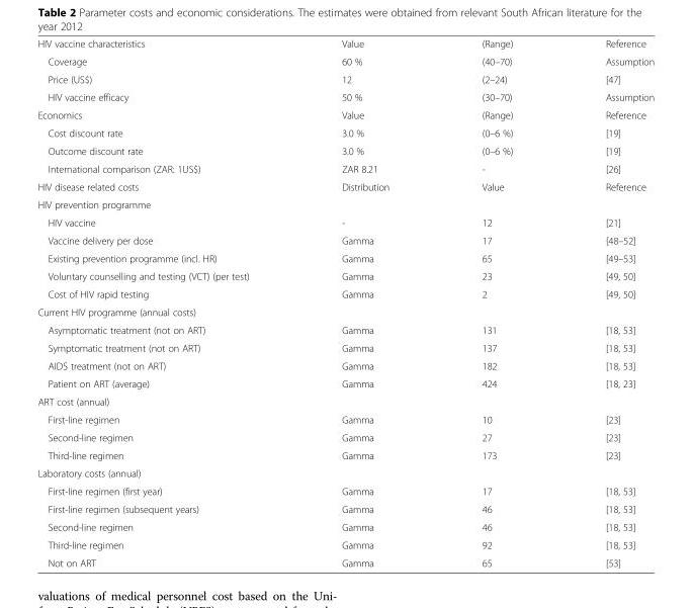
<table><tbody><tr><td>HIV vaccine characteristics</td><td>Value</td><td>(Range)</td><td>Reference</td></tr><tr><td>Coverage</td><td>60 %</td><td>(40–70)</td><td>Assumption</td></tr><tr><td>Price (US$)</td><td>12</td><td>(2–24)</td><td>[47]</td></tr><tr><td>HIV vaccine efficacy</td><td>50 %</td><td>(30–70)</td><td>Assumption</td></tr><tr><td>Economics</td><td>Value</td><td>(Range)</td><td>Reference</td></tr><tr><td>Cost discount rate</td><td>3.0 %</td><td>(0–6 %)</td><td>[19]</td></tr><tr><td>Outcome discount rate</td><td>3.0 %</td><td>(0–6 %)</td><td>[19]</td></tr><tr><td>International comparison (ZAR: 1US$)</td><td>ZAR 8.21</td><td>-</td><td>[26]</td></tr><tr><td>HIV disease related costs</td><td>Distribution</td><td>Value</td><td>Reference</td></tr><tr><td colspan="4">HIV prevention programme</td></tr><tr><td>HIV vaccine</td><td>-</td><td>12</td><td>[21]</td></tr><tr><td>Vaccine delivery per dose</td><td>Gamma</td><td>17</td><td>[48–52]</td></tr><tr><td>Existing prevention programme (incl. HR)</td><td>Gamma</td><td>65</td><td>[49–53]</td></tr><tr><td>Voluntary counselling and testing (VCT) (per test)</td><td>Gamma</td><td>23</td><td>[49, 50]</td></tr><tr><td>Cost of HIV rapid testing</td><td>Gamma</td><td>2</td><td>[49, 50]</td></tr><tr><td colspan="4">Current HIV programme (annual costs)</td></tr><tr><td>Asymptomatic treatment (not on ART)</td><td>Gamma</td><td>131</td><td>[18, 53]</td></tr><tr><td>Symptomatic treatment (not on ART)</td><td>Gamma</td><td>137</td><td>[18, 53]</td></tr><tr><td>AIDS treatment (not on ART)</td><td>Gamma</td><td>182</td><td>[18, 53]</td></tr><tr><td>Patient on ART (average)</td><td>Gamma</td><td>424</td><td>[18, 23]</td></tr><tr><td colspan="4">ART cost (annual)</td></tr><tr><td>First-line regimen</td><td>Gamma</td><td>10</td><td>[23]</td></tr><tr><td>Second-line regimen</td><td>Gamma</td><td>27</td><td>[23]</td></tr><tr><td>Third-line regimen</td><td>Gamma</td><td>173</td><td>[23]</td></tr><tr><td colspan="4">Laboratory costs (annual)</td></tr><tr><td>First-line regimen (first year)</td><td>Gamma</td><td>17</td><td>[18, 53]</td></tr><tr><td>First-line regimen (subsequent years)</td><td>Gamma</td><td>46</td><td>[18, 53]</td></tr><tr><td>Second-line regimen</td><td>Gamma</td><td>46</td><td>[18, 53]</td></tr><tr><td>Third-line regimen</td><td>Gamma</td><td>92</td><td>[18, 53]</td></tr><tr><td>Not on ART</td><td>Gamma</td><td>65</td><td>[53]</td></tr></tbody></table>